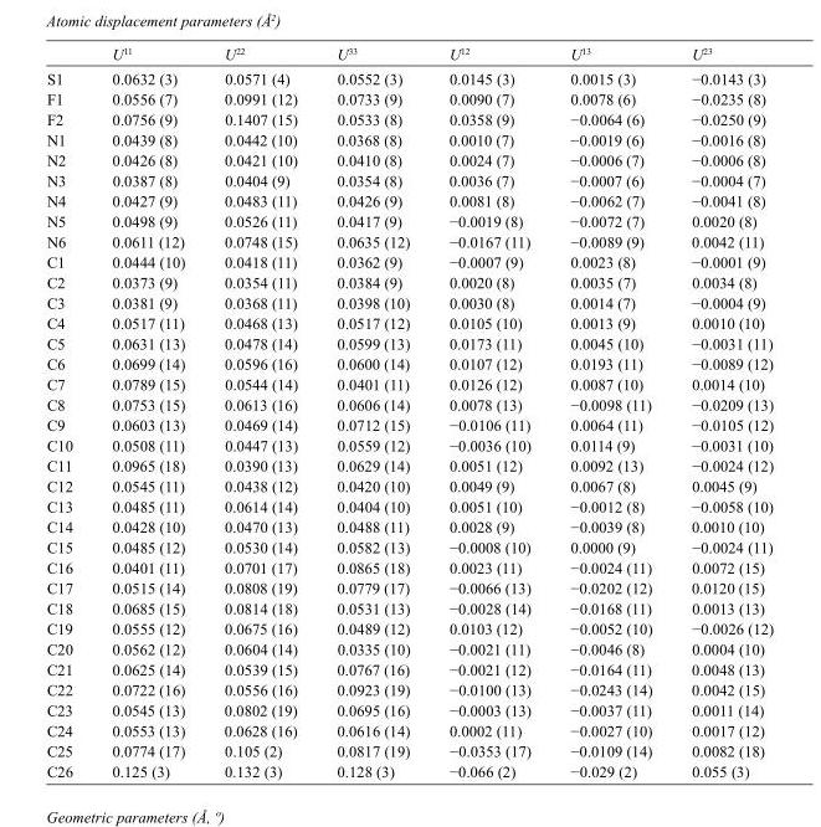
<table><thead><tr><td></td><td>U<sup>11</sup></td><td>U<sup>22</sup></td><td>U<sup>33</sup></td><td>U<sup>12</sup></td><td>U<sup>13</sup></td><td>U<sup>23</sup></td></tr></thead><tbody><tr><td>S1</td><td>0.0632 (3)</td><td>0.0571 (4)</td><td>0.0552 (3)</td><td>0.0145 (3)</td><td>0.0015 (3)</td><td>−0.0143 (3)</td></tr><tr><td>F1</td><td>0.0556 (7)</td><td>0.0991 (12)</td><td>0.0733 (9)</td><td>0.0090 (7)</td><td>0.0078 (6)</td><td>−0.0235 (8)</td></tr><tr><td>F2</td><td>0.0756 (9)</td><td>0.1407 (15)</td><td>0.0533 (8)</td><td>0.0358 (9)</td><td>−0.0064 (6)</td><td>−0.0250 (9)</td></tr><tr><td>N1</td><td>0.0439 (8)</td><td>0.0442 (10)</td><td>0.0368 (8)</td><td>0.0010 (7)</td><td>−0.0019 (6)</td><td>−0.0016 (8)</td></tr><tr><td>N2</td><td>0.0426 (8)</td><td>0.0421 (10)</td><td>0.0410 (8)</td><td>0.0024 (7)</td><td>−0.0006 (7)</td><td>−0.0006 (8)</td></tr><tr><td>N3</td><td>0.0387 (8)</td><td>0.0404 (9)</td><td>0.0354 (8)</td><td>0.0036 (7)</td><td>−0.0007 (6)</td><td>−0.0004 (7)</td></tr><tr><td>N4</td><td>0.0427 (9)</td><td>0.0483 (11)</td><td>0.0426 (9)</td><td>0.0081 (8)</td><td>−0.0062 (7)</td><td>−0.0041 (8)</td></tr><tr><td>N5</td><td>0.0498 (9)</td><td>0.0526 (11)</td><td>0.0417 (9)</td><td>−0.0019 (8)</td><td>−0.0072 (7)</td><td>0.0020 (8)</td></tr><tr><td>N6</td><td>0.0611 (12)</td><td>0.0748 (15)</td><td>0.0635 (12)</td><td>−0.0167 (11)</td><td>−0.0089 (9)</td><td>0.0042 (11)</td></tr><tr><td>C1</td><td>0.0444 (10)</td><td>0.0418 (11)</td><td>0.0362 (9)</td><td>−0.0007 (9)</td><td>0.0023 (8)</td><td>−0.0001 (9)</td></tr><tr><td>C2</td><td>0.0373 (9)</td><td>0.0354 (11)</td><td>0.0384 (9)</td><td>0.0020 (8)</td><td>0.0035 (7)</td><td>0.0034 (8)</td></tr><tr><td>C3</td><td>0.0381 (9)</td><td>0.0368 (11)</td><td>0.0398 (10)</td><td>0.0030 (8)</td><td>0.0014 (7)</td><td>−0.0004 (9)</td></tr><tr><td>C4</td><td>0.0517 (11)</td><td>0.0468 (13)</td><td>0.0517 (12)</td><td>0.0105 (10)</td><td>0.0013 (9)</td><td>0.0010 (10)</td></tr><tr><td>C5</td><td>0.0631 (13)</td><td>0.0478 (14)</td><td>0.0599 (13)</td><td>0.0173 (11)</td><td>0.0045 (10)</td><td>−0.0031 (11)</td></tr><tr><td>C6</td><td>0.0699 (14)</td><td>0.0596 (16)</td><td>0.0600 (14)</td><td>0.0107 (12)</td><td>0.0193 (11)</td><td>−0.0089 (12)</td></tr><tr><td>C7</td><td>0.0789 (15)</td><td>0.0544 (14)</td><td>0.0401 (11)</td><td>0.0126 (12)</td><td>0.0087 (10)</td><td>0.0014 (10)</td></tr><tr><td>C8</td><td>0.0753 (15)</td><td>0.0613 (16)</td><td>0.0606 (14)</td><td>0.0078 (13)</td><td>−0.0098 (11)</td><td>−0.0209 (13)</td></tr><tr><td>C9</td><td>0.0603 (13)</td><td>0.0469 (14)</td><td>0.0712 (15)</td><td>−0.0106 (11)</td><td>0.0064 (11)</td><td>−0.0105 (12)</td></tr><tr><td>C10</td><td>0.0508 (11)</td><td>0.0447 (13)</td><td>0.0559 (12)</td><td>−0.0036 (10)</td><td>0.0114 (9)</td><td>−0.0031 (10)</td></tr><tr><td>C11</td><td>0.0965 (18)</td><td>0.0390 (13)</td><td>0.0629 (14)</td><td>0.0051 (12)</td><td>0.0092 (13)</td><td>−0.0024 (12)</td></tr><tr><td>C12</td><td>0.0545 (11)</td><td>0.0438 (12)</td><td>0.0420 (10)</td><td>0.0049 (9)</td><td>0.0067 (8)</td><td>0.0045 (9)</td></tr><tr><td>C13</td><td>0.0485 (11)</td><td>0.0614 (14)</td><td>0.0404 (10)</td><td>0.0051 (10)</td><td>−0.0012 (8)</td><td>−0.0058 (10)</td></tr><tr><td>C14</td><td>0.0428 (10)</td><td>0.0470 (13)</td><td>0.0488 (11)</td><td>0.0028 (9)</td><td>−0.0039 (8)</td><td>0.0010 (10)</td></tr><tr><td>C15</td><td>0.0485 (12)</td><td>0.0530 (14)</td><td>0.0582 (13)</td><td>−0.0008 (10)</td><td>0.0000 (9)</td><td>−0.0024 (11)</td></tr><tr><td>C16</td><td>0.0401 (11)</td><td>0.0701 (17)</td><td>0.0865 (18)</td><td>0.0023 (11)</td><td>−0.0024 (11)</td><td>0.0072 (15)</td></tr><tr><td>C17</td><td>0.0515 (14)</td><td>0.0808 (19)</td><td>0.0779 (17)</td><td>−0.0066 (13)</td><td>−0.0202 (12)</td><td>0.0120 (15)</td></tr><tr><td>C18</td><td>0.0685 (15)</td><td>0.0814 (18)</td><td>0.0531 (13)</td><td>−0.0028 (14)</td><td>−0.0168 (11)</td><td>0.0013 (13)</td></tr><tr><td>C19</td><td>0.0555 (12)</td><td>0.0675 (16)</td><td>0.0489 (12)</td><td>0.0103 (12)</td><td>−0.0052 (10)</td><td>−0.0026 (12)</td></tr><tr><td>C20</td><td>0.0562 (12)</td><td>0.0604 (14)</td><td>0.0335 (10)</td><td>−0.0021 (11)</td><td>−0.0046 (8)</td><td>0.0004 (10)</td></tr><tr><td>C21</td><td>0.0625 (14)</td><td>0.0539 (15)</td><td>0.0767 (16)</td><td>−0.0021 (12)</td><td>−0.0164 (11)</td><td>0.0048 (13)</td></tr><tr><td>C22</td><td>0.0722 (16)</td><td>0.0556 (16)</td><td>0.0923 (19)</td><td>−0.0100 (13)</td><td>−0.0243 (14)</td><td>0.0042 (15)</td></tr><tr><td>C23</td><td>0.0545 (13)</td><td>0.0802 (19)</td><td>0.0695 (16)</td><td>−0.0003 (13)</td><td>−0.0037 (11)</td><td>0.0011 (14)</td></tr><tr><td>C24</td><td>0.0553 (13)</td><td>0.0628 (16)</td><td>0.0616 (14)</td><td>0.0002 (11)</td><td>−0.0027 (10)</td><td>0.0017 (12)</td></tr><tr><td>C25</td><td>0.0774 (17)</td><td>0.105 (2)</td><td>0.0817 (19)</td><td>−0.0353 (17)</td><td>−0.0109 (14)</td><td>0.0082 (18)</td></tr><tr><td>C26</td><td>0.125 (3)</td><td>0.132 (3)</td><td>0.128 (3)</td><td>−0.066 (2)</td><td>−0.029 (2)</td><td>0.055 (3)</td></tr></tbody></table>